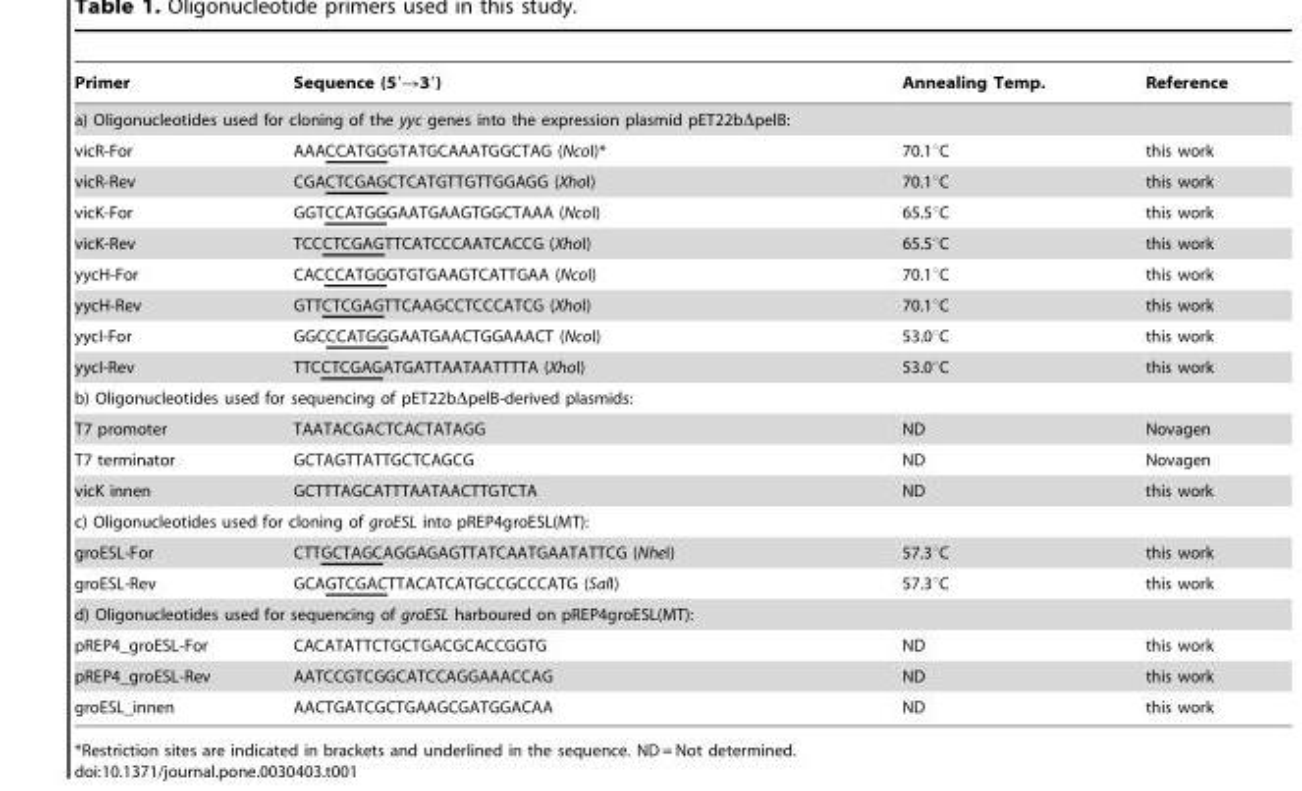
<table><thead><tr><td>Primer</td><td>Sequence (5′→3′)</td><td>Annealing Temp.</td><td>Reference</td></tr></thead><tbody><tr><td colspan="4">a) Oligonucleotides used for cloning of the yyc genes into the expression plasmid pET22bΔpelB:</td></tr><tr><td>vicR-For</td><td>AAACCATGGGTATGCAAATGGCTAG (NcoI)*</td><td>70.1°C</td><td>this work</td></tr><tr><td>vicR-Rev</td><td>CGACTCGAGCTCATGTTGTTGGAGG (XhoI)</td><td>70.1°C</td><td>this work</td></tr><tr><td>vicK-For</td><td>GGTCCATGGGAATGAAGTGGCTAAA (NcoI)</td><td>65.5°C</td><td>this work</td></tr><tr><td>vicK-Rev</td><td>TCCCTCGAGTTCATCCCAATCACCG (XhoI)</td><td>65.5°C</td><td>this work</td></tr><tr><td>yycH-For</td><td>CACCCATGGGTGTGAAGTCATTGAA (NcoI)</td><td>70.1°C</td><td>this work</td></tr><tr><td>yycH-Rev</td><td>GTTCTCGAGTTCAAGCCTCCCATCG (XhoI)</td><td>70.1°C</td><td>this work</td></tr><tr><td>yycI-For</td><td>GGCCCATGGGAATGAACTGGAAACT (NcoI)</td><td>53.0°C</td><td>this work</td></tr><tr><td>yycI-Rev</td><td>TTCCTCGAGATGATTAATAATTTTA (XhoI)</td><td>53.0°C</td><td>this work</td></tr><tr><td colspan="4">b) Oligonucleotides used for sequencing of pET22bΔpelB-derived plasmids:</td></tr><tr><td>T7 promoter</td><td>TAATACGACTCACTATAGG</td><td>ND</td><td>Novagen</td></tr><tr><td>T7 terminator</td><td>GCTAGTTATTGCTCAGCG</td><td>ND</td><td>Novagen</td></tr><tr><td>vicK innen</td><td>GCTTTAGCATTTAATAACTTGTCTA</td><td>ND</td><td>this work</td></tr><tr><td colspan="4">c) Oligonucleotides used for cloning of groESL into pREP4groESL(MT):</td></tr><tr><td>groESL-For</td><td>CTTGCTAGCAGGAGAGTTATCAATGAATATTCG (NheI)</td><td>57.3°C</td><td>this work</td></tr><tr><td>groESL-Rev</td><td>GCAGTCGACTTACATCATGCCGCCCATG (SalI)</td><td>57.3°C</td><td>this work</td></tr><tr><td colspan="4">d) Oligonucleotides used for sequencing of groESL harboured on pREP4groESL(MT):</td></tr><tr><td>pREP4_groESL-For</td><td>CACATATTCTGCTGACGCACCGGTG</td><td>ND</td><td>this work</td></tr><tr><td>pREP4_groESL-Rev</td><td>AATCCGTCGGCATCCAGGAAACCAG</td><td>ND</td><td>this work</td></tr><tr><td>groESL_innen</td><td>AACTGATCGCTGAAGCGATGGACAA</td><td>ND</td><td>this work</td></tr></tbody></table>